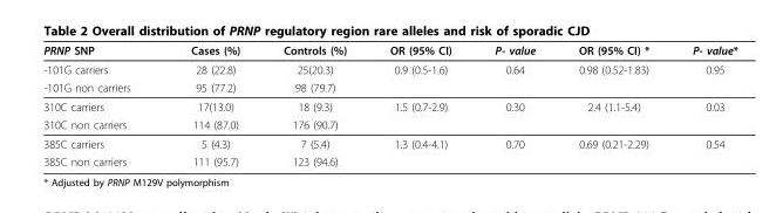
<table><thead><tr><td>PRNP SNP</td><td>Cases (%)</td><td>Controls (%)</td><td>OR (95% CI)</td><td>P- value</td><td>OR (95% CI) *</td><td>P- value*</td></tr></thead><tbody><tr><td>-101G carriers</td><td>28 (22.8)</td><td>25(20.3)</td><td>0.9 (0.5-1.6)</td><td>0.64</td><td>0.98 (0.52-1.83)</td><td>0.95</td></tr><tr><td>-101G non carriers</td><td>95 (77.2)</td><td>98 (79.7)</td><td></td><td></td><td></td><td></td></tr><tr><td>310C carriers</td><td>17(13.0)</td><td>18 (9.3)</td><td>1.5 (0.7-2.9)</td><td>0.30</td><td>2.4 (1.1-5.4)</td><td>0.03</td></tr><tr><td>310C non carriers</td><td>114 (87.0)</td><td>176 (90.7)</td><td></td><td></td><td></td><td></td></tr><tr><td>385C carriers</td><td>5 (4.3)</td><td>7 (5.4)</td><td>1.3 (0.4-4.1)</td><td>0.70</td><td>0.69 (0.21-2.29)</td><td>0.54</td></tr><tr><td>385C non carriers</td><td>111 (95.7)</td><td>123 (94.6)</td><td></td><td></td><td></td><td></td></tr></tbody></table>